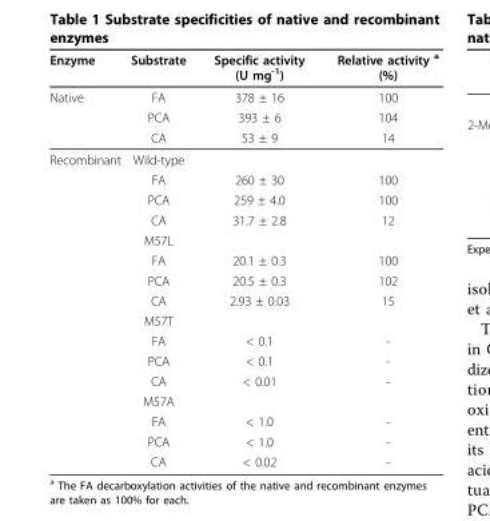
<table><thead><tr><td>Enzyme</td><td>Substrate</td><td>Specific activity (U mg<sup>-1</sup>)</td><td>Relative activity <sup>a</sup> (%)</td></tr></thead><tbody><tr><td rowspan="3">Native</td><td>FA</td><td>378 ± 16</td><td>100</td></tr><tr><td>PCA</td><td>393 ± 6</td><td>104</td></tr><tr><td>CA</td><td>53 ± 9</td><td>14</td></tr><tr><td rowspan="16">Recombinant</td><td>Wild-type</td><td></td><td></td></tr><tr><td>FA</td><td>260 ± 30</td><td>100</td></tr><tr><td>PCA</td><td>259 ± 4.0</td><td>100</td></tr><tr><td>CA</td><td>31.7 ± 2.8</td><td>12</td></tr><tr><td>M57L</td><td></td><td></td></tr><tr><td>FA</td><td>20.1 ± 0.3</td><td>100</td></tr><tr><td>PCA</td><td>20.5 ± 0.3</td><td>102</td></tr><tr><td>CA</td><td>2.93 ± 0.03</td><td>15</td></tr><tr><td>M57T</td><td></td><td></td></tr><tr><td>FA</td><td>&lt; 0.1</td><td>-</td></tr><tr><td>PCA</td><td>&lt; 0.1</td><td>-</td></tr><tr><td>CA</td><td>&lt; 0.01</td><td>-</td></tr><tr><td>M57A</td><td></td><td></td></tr><tr><td>FA</td><td>&lt; 1.0</td><td>-</td></tr><tr><td>PCA</td><td>&lt; 1.0</td><td>-</td></tr><tr><td>CA</td><td>&lt; 0.02</td><td>-</td></tr></tbody></table>